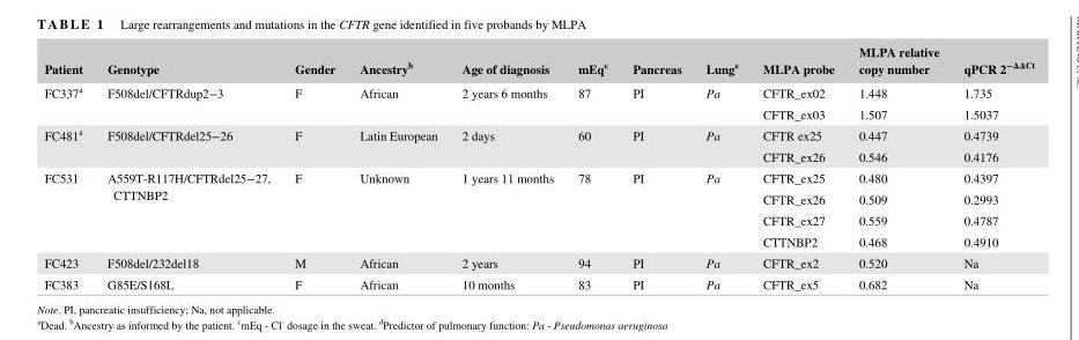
<table><thead><tr><td>Patient</td><td>Genotype</td><td>Gender</td><td>Ancestry<sup>b</sup></td><td>Age of diagnosis</td><td>mEq<sup>c</sup></td><td>Pancreas</td><td>Lung<sup>e</sup></td><td>MLPA probe</td><td>MLPA relative copy number</td><td>qPCR 2<sup>−ΔΔCt</sup></td></tr></thead><tbody><tr><td rowspan="2">FC337<sup>a</sup></td><td rowspan="2">F508del/CFTRdup2−3</td><td rowspan="2">F</td><td rowspan="2">African</td><td rowspan="2">2 years 6 months</td><td rowspan="2">87</td><td rowspan="2">PI</td><td rowspan="2">Pa</td><td>CFTR_ex02</td><td>1.448</td><td>1.735</td></tr><tr><td>CFTR_ex03</td><td>1.507</td><td>1.5037</td></tr><tr><td rowspan="2">FC481<sup>a</sup></td><td rowspan="2">F508del/CFTRdel25−26</td><td rowspan="2">F</td><td rowspan="2">Latin European</td><td rowspan="2">2 days</td><td rowspan="2">60</td><td rowspan="2">PI</td><td rowspan="2">Pa</td><td>CFTR ex25</td><td>0.447</td><td>0.4739</td></tr><tr><td>CFTR_ex26</td><td>0.546</td><td>0.4176</td></tr><tr><td rowspan="4">FC531</td><td rowspan="4">A559T‐R117H/CFTRdel25−27, CTTNBP2</td><td rowspan="4">F</td><td rowspan="4">Unknown</td><td rowspan="4">1 years 11 months</td><td rowspan="4">78</td><td rowspan="4">PI</td><td rowspan="4">Pa</td><td>CFTR_ex25</td><td>0.480</td><td>0.4397</td></tr><tr><td>CFTR_ex26</td><td>0.509</td><td>0.2993</td></tr><tr><td>CFTR_ex27</td><td>0.559</td><td>0.4787</td></tr><tr><td>CTTNBP2</td><td>0.468</td><td>0.4910</td></tr><tr><td>FC423</td><td>F508del/232del18</td><td>M</td><td>African</td><td>2 years</td><td>94</td><td>PI</td><td>Pa</td><td>CFTR_ex2</td><td>0.520</td><td>Na</td></tr><tr><td>FC383</td><td>G85E/S168L</td><td>F</td><td>African</td><td>10 months</td><td>83</td><td>PI</td><td>Pa</td><td>CFTR_ex5</td><td>0.682</td><td>Na</td></tr></tbody></table>